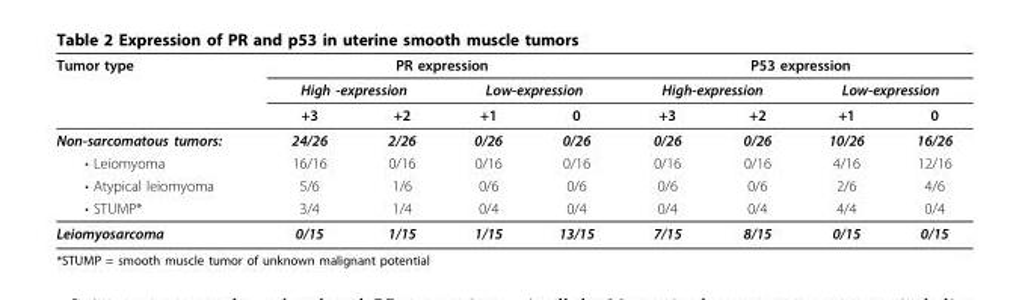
<table><thead><tr><td rowspan="3">Tumor type</td><td colspan="4">PR expression</td><td colspan="4">P53 expression</td></tr><tr><td colspan="2">High -expression</td><td colspan="2">Low-expression</td><td colspan="2">High-expression</td><td colspan="2">Low-expression</td></tr><tr><td>+3</td><td>+2</td><td>+1</td><td>0</td><td>+3</td><td>+2</td><td>+1</td><td>0</td></tr></thead><tbody><tr><td>Non-sarcomatous tumors:</td><td>24/26</td><td>2/26</td><td>0/26</td><td>0/26</td><td>0/26</td><td>0/26</td><td>10/26</td><td>16/26</td></tr><tr><td>• Leiomyoma</td><td>16/16</td><td>0/16</td><td>0/16</td><td>0/16</td><td>0/16</td><td>0/16</td><td>4/16</td><td>12/16</td></tr><tr><td>• Atypical leiomyoma</td><td>5/6</td><td>1/6</td><td>0/6</td><td>0/6</td><td>0/6</td><td>0/6</td><td>2/6</td><td>4/6</td></tr><tr><td>• STUMP*</td><td>3/4</td><td>1/4</td><td>0/4</td><td>0/4</td><td>0/4</td><td>0/4</td><td>4/4</td><td>0/4</td></tr><tr><td>Leiomyosarcoma</td><td>0/15</td><td>1/15</td><td>1/15</td><td>13/15</td><td>7/15</td><td>8/15</td><td>0/15</td><td>0/15</td></tr></tbody></table>